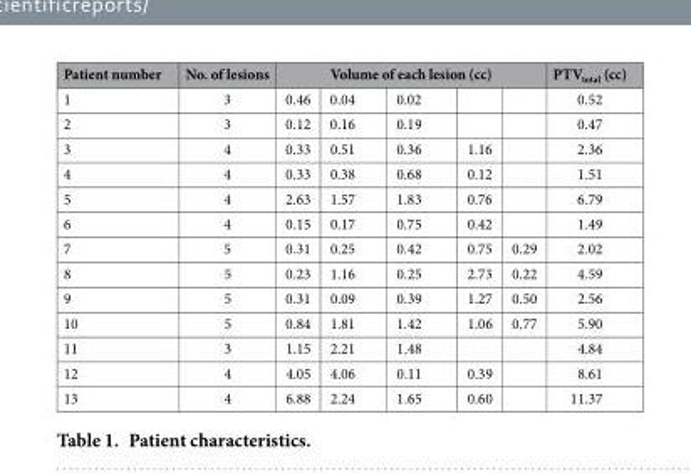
<table><thead><tr><td rowspan="2">Patient number 1</td><td rowspan="2">No. of lesions 3</td><td colspan="5">Volume of each lesion (cc)</td><td rowspan="2">PTV<sub>total</sub> (cc) 0.52</td></tr><tr><td>0.46</td><td>0.04</td><td>0.02</td><td></td><td></td></tr></thead><tbody><tr><td>2</td><td>3</td><td>0.12</td><td>0.16</td><td>0.19</td><td></td><td></td><td>0.47</td></tr><tr><td>3</td><td>4</td><td>0.33</td><td>0.51</td><td>0.36</td><td>1.16</td><td></td><td>2.36</td></tr><tr><td>4</td><td>4</td><td>0.33</td><td>0.38</td><td>0.68</td><td>0.12</td><td></td><td>1.51</td></tr><tr><td>5</td><td>4</td><td>2.63</td><td>1.57</td><td>1.83</td><td>0.76</td><td></td><td>6.79</td></tr><tr><td>6</td><td>4</td><td>0.15</td><td>0.17</td><td>0.75</td><td>0.42</td><td></td><td>1.49</td></tr><tr><td>7</td><td>5</td><td>0.31</td><td>0.25</td><td>0.42</td><td>0.75</td><td>0.29</td><td>2.02</td></tr><tr><td>8</td><td>5</td><td>0.23</td><td>1.16</td><td>0.25</td><td>2.73</td><td>0.22</td><td>4.59</td></tr><tr><td>9</td><td>5</td><td>0.31</td><td>0.09</td><td>0.39</td><td>1.27</td><td>0.50</td><td>2.56</td></tr><tr><td>10</td><td>5</td><td>0.84</td><td>1.81</td><td>1.42</td><td>1.06</td><td>0.77</td><td>5.90</td></tr><tr><td>11</td><td>3</td><td>1.15</td><td>2.21</td><td>1.48</td><td></td><td></td><td>4.84</td></tr><tr><td>12</td><td>4</td><td>4.05</td><td>4.06</td><td>0.11</td><td>0.39</td><td></td><td>8.61</td></tr><tr><td>13</td><td>4</td><td>6.88</td><td>2.24</td><td>1.65</td><td>0.60</td><td></td><td>11.37</td></tr></tbody></table>